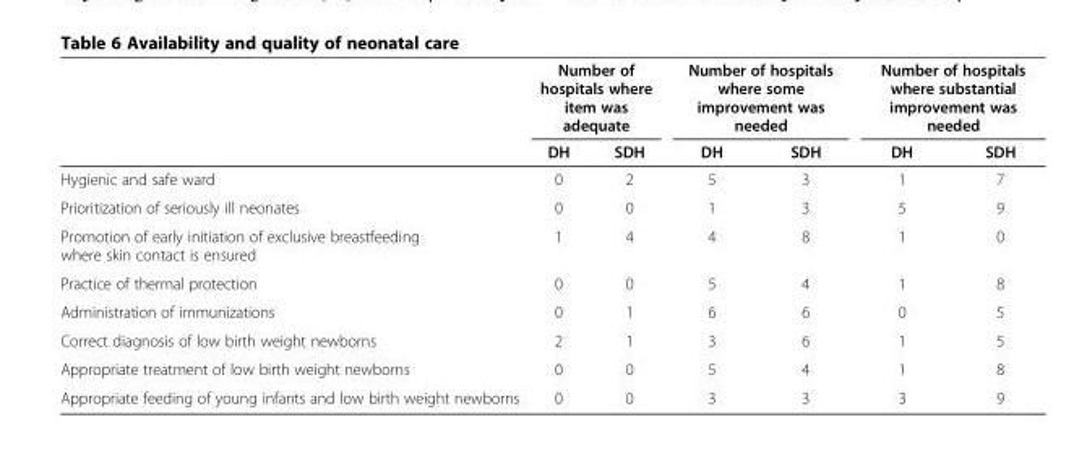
<table><thead><tr><td rowspan="2"></td><td colspan="2">Number of hospitals where item was adequate</td><td colspan="2">Number of hospitals where some improvement was needed</td><td colspan="2">Number of hospitals where substantial improvement was needed</td></tr><tr><td>DH</td><td>SDH</td><td>DH</td><td>SDH</td><td>DH</td><td>SDH</td></tr></thead><tbody><tr><td>Hygienic and safe ward</td><td>0</td><td>2</td><td>5</td><td>3</td><td>1</td><td>7</td></tr><tr><td>Prioritization of seriously ill neonates</td><td>0</td><td>0</td><td>1</td><td>3</td><td>5</td><td>9</td></tr><tr><td>Promotion of early initiation of exclusive breastfeeding where skin contact is ensured</td><td>1</td><td>4</td><td>4</td><td>8</td><td>1</td><td>0</td></tr><tr><td>Practice of thermal protection</td><td>0</td><td>0</td><td>5</td><td>4</td><td>1</td><td>8</td></tr><tr><td>Administration of immunizations</td><td>0</td><td>1</td><td>6</td><td>6</td><td>0</td><td>5</td></tr><tr><td>Correct diagnosis of low birth weight newborns</td><td>2</td><td>1</td><td>3</td><td>6</td><td>1</td><td>5</td></tr><tr><td>Appropriate treatment of low birth weight newborns</td><td>0</td><td>0</td><td>5</td><td>4</td><td>1</td><td>8</td></tr><tr><td>Appropriate feeding of young infants and low birth weight newborns</td><td>0</td><td>0</td><td>3</td><td>3</td><td>3</td><td>9</td></tr></tbody></table>